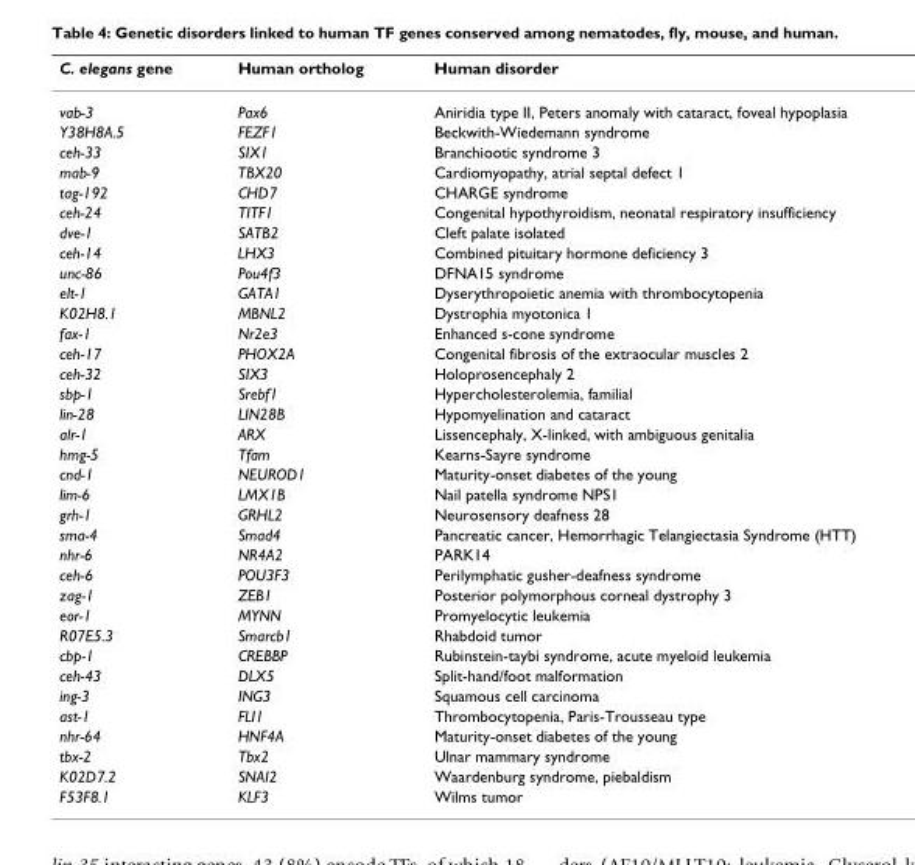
<table><thead><tr><td>C. elegans gene</td><td>Human ortholog</td><td>Human disorder</td></tr></thead><tbody><tr><td>vab-3</td><td>Pax6</td><td>Aniridia type II, Peters anomaly with cataract, foveal hypoplasia</td></tr><tr><td>Y38H8A.5</td><td>FEZF1</td><td>Beckwith-Wiedemann syndrome</td></tr><tr><td>ceh-33</td><td>SIX1</td><td>Branchiootic syndrome 3</td></tr><tr><td>mab-9</td><td>TBX20</td><td>Cardiomyopathy, atrial septal defect 1</td></tr><tr><td>tag-192</td><td>CHD7</td><td>CHARGE syndrome</td></tr><tr><td>ceh-24</td><td>TITF1</td><td>Congenital hypothyroidism, neonatal respiratory insufficiency</td></tr><tr><td>dve-1</td><td>SATB2</td><td>Cleft palate isolated</td></tr><tr><td>ceh-14</td><td>LHX3</td><td>Combined pituitary hormone deficiency 3</td></tr><tr><td>unc-86</td><td>Pou4f3</td><td>DFNA15 syndrome</td></tr><tr><td>elt-1</td><td>GATA1</td><td>Dyserythropoietic anemia with thrombocytopenia</td></tr><tr><td>K02H8.1</td><td>MBNL2</td><td>Dystrophia myotonica 1</td></tr><tr><td>fax-1</td><td>Nr2e3</td><td>Enhanced s-cone syndrome</td></tr><tr><td>ceh-17</td><td>PHOX2A</td><td>Congenital fibrosis of the extraocular muscles 2</td></tr><tr><td>ceh-32</td><td>SIX3</td><td>Holoprosencephaly 2</td></tr><tr><td>sbp-1</td><td>Srebf1</td><td>Hypercholesterolemia, familial</td></tr><tr><td>lin-28</td><td>LIN28B</td><td>Hypomyelination and cataract</td></tr><tr><td>alr-1</td><td>ARX</td><td>Lissencephaly, X-linked, with ambiguous genitalia</td></tr><tr><td>hmg-5</td><td>Tfam</td><td>Kearns-Sayre syndrome</td></tr><tr><td>cnd-1</td><td>NEUROD1</td><td>Maturity-onset diabetes of the young</td></tr><tr><td>lim-6</td><td>LMX1B</td><td>Nail patella syndrome NPS1</td></tr><tr><td>grh-1</td><td>GRHL2</td><td>Neurosensory deafness 28</td></tr><tr><td>sma-4</td><td>Smad4</td><td>Pancreatic cancer, Hemorrhagic Telangiectasia Syndrome (HTT)</td></tr><tr><td>nhr-6</td><td>NR4A2</td><td>PARK14</td></tr><tr><td>ceh-6</td><td>POU3F3</td><td>Perilymphatic gusher-deafness syndrome</td></tr><tr><td>zag-1</td><td>ZEB1</td><td>Posterior polymorphous corneal dystrophy 3</td></tr><tr><td>eor-1</td><td>MYNN</td><td>Promyelocytic leukemia</td></tr><tr><td>R07E5.3</td><td>Smarcb1</td><td>Rhabdoid tumor</td></tr><tr><td>cbp-1</td><td>CREBBP</td><td>Rubinstein-taybi syndrome, acute myeloid leukemia</td></tr><tr><td>ceh-43</td><td>DLX5</td><td>Split-hand/foot malformation</td></tr><tr><td>ing-3</td><td>ING3</td><td>Squamous cell carcinoma</td></tr><tr><td>ast-1</td><td>FLI1</td><td>Thrombocytopenia, Paris-Trousseau type</td></tr><tr><td>nhr-64</td><td>HNF4A</td><td>Maturity-onset diabetes of the young</td></tr><tr><td>tbx-2</td><td>Tbx2</td><td>Ulnar mammary syndrome</td></tr><tr><td>K02D7.2</td><td>SNAI2</td><td>Waardenburg syndrome, piebaldism</td></tr><tr><td>F53F8.1</td><td>KLF3</td><td>Wilms tumor</td></tr></tbody></table>